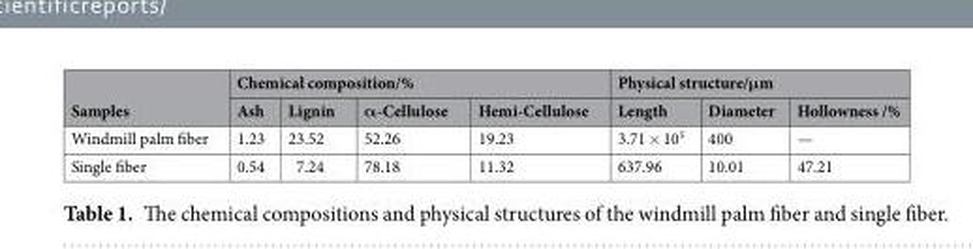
<table><thead><tr><td rowspan="2">Samples</td><td colspan="4">Chemical composition/%</td><td colspan="3">Physical structure/μm</td></tr><tr><td>Ash</td><td>Lignin</td><td>α-Cellulose</td><td>Hemi-Cellulose</td><td>Length</td><td>Diameter</td><td>Hollowness /%</td></tr></thead><tbody><tr><td>Windmill palm fiber</td><td>1.23</td><td>23.52</td><td>52.26</td><td>19.23</td><td>3.71 × 10<sup>5</sup></td><td>400</td><td>—</td></tr><tr><td>Single fiber</td><td>0.54</td><td>7.24</td><td>78.18</td><td>11.32</td><td>637.96</td><td>10.01</td><td>47.21</td></tr></tbody></table>